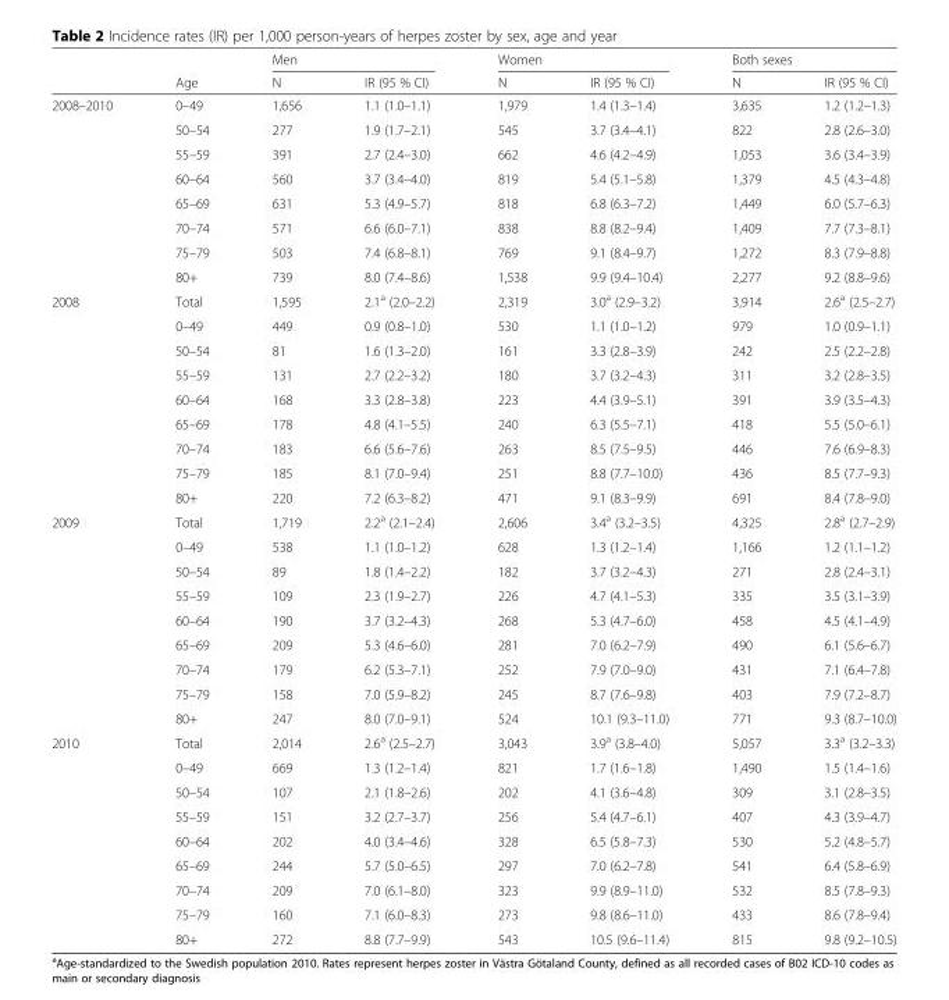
<table><thead><tr><td rowspan="2"></td><td rowspan="2">Age</td><td colspan="2">Men</td><td colspan="2">Women</td><td colspan="2">Both sexes</td></tr><tr><td>N</td><td>IR (95 % CI)</td><td>N</td><td>IR (95 % CI)</td><td>N</td><td>IR (95 % CI)</td></tr></thead><tbody><tr><td rowspan="8">2008–2010</td><td>0–49</td><td>1,656</td><td>1.1 (1.0–1.1)</td><td>1,979</td><td>1.4 (1.3–1.4)</td><td>3,635</td><td>1.2 (1.2–1.3)</td></tr><tr><td>50–54</td><td>277</td><td>1.9 (1.7–2.1)</td><td>545</td><td>3.7 (3.4–4.1)</td><td>822</td><td>2.8 (2.6–3.0)</td></tr><tr><td>55–59</td><td>391</td><td>2.7 (2.4–3.0)</td><td>662</td><td>4.6 (4.2–4.9)</td><td>1,053</td><td>3.6 (3.4–3.9)</td></tr><tr><td>60–64</td><td>560</td><td>3.7 (3.4–4.0)</td><td>819</td><td>5.4 (5.1–5.8)</td><td>1,379</td><td>4.5 (4.3–4.8)</td></tr><tr><td>65–69</td><td>631</td><td>5.3 (4.9–5.7)</td><td>818</td><td>6.8 (6.3–7.2)</td><td>1,449</td><td>6.0 (5.7–6.3)</td></tr><tr><td>70–74</td><td>571</td><td>6.6 (6.0–7.1)</td><td>838</td><td>8.8 (8.2–9.4)</td><td>1,409</td><td>7.7 (7.3–8.1)</td></tr><tr><td>75–79</td><td>503</td><td>7.4 (6.8–8.1)</td><td>769</td><td>9.1 (8.4–9.7)</td><td>1,272</td><td>8.3 (7.9–8.8)</td></tr><tr><td>80+</td><td>739</td><td>8.0 (7.4–8.6)</td><td>1,538</td><td>9.9 (9.4–10.4)</td><td>2,277</td><td>9.2 (8.8–9.6)</td></tr><tr><td rowspan="9">2008</td><td>Total</td><td>1,595</td><td>2.1<sup>a</sup> (2.0–2.2)</td><td>2,319</td><td>3.0<sup>a</sup> (2.9–3.2)</td><td>3,914</td><td>2.6<sup>a</sup> (2.5–2.7)</td></tr><tr><td>0–49</td><td>449</td><td>0.9 (0.8–1.0)</td><td>530</td><td>1.1 (1.0–1.2)</td><td>979</td><td>1.0 (0.9–1.1)</td></tr><tr><td>50–54</td><td>81</td><td>1.6 (1.3–2.0)</td><td>161</td><td>3.3 (2.8–3.9)</td><td>242</td><td>2.5 (2.2–2.8)</td></tr><tr><td>55–59</td><td>131</td><td>2.7 (2.2–3.2)</td><td>180</td><td>3.7 (3.2–4.3)</td><td>311</td><td>3.2 (2.8–3.5)</td></tr><tr><td>60–64</td><td>168</td><td>3.3 (2.8–3.8)</td><td>223</td><td>4.4 (3.9–5.1)</td><td>391</td><td>3.9 (3.5–4.3)</td></tr><tr><td>65–69</td><td>178</td><td>4.8 (4.1–5.5)</td><td>240</td><td>6.3 (5.5–7.1)</td><td>418</td><td>5.5 (5.0–6.1)</td></tr><tr><td>70–74</td><td>183</td><td>6.6 (5.6–7.6)</td><td>263</td><td>8.5 (7.5–9.5)</td><td>446</td><td>7.6 (6.9–8.3)</td></tr><tr><td>75–79</td><td>185</td><td>8.1 (7.0–9.4)</td><td>251</td><td>8.8 (7.7–10.0)</td><td>436</td><td>8.5 (7.7–9.3)</td></tr><tr><td>80+</td><td>220</td><td>7.2 (6.3–8.2)</td><td>471</td><td>9.1 (8.3–9.9)</td><td>691</td><td>8.4 (7.8–9.0)</td></tr><tr><td rowspan="9">2009</td><td>Total</td><td>1,719</td><td>2.2<sup>a</sup> (2.1–2.4)</td><td>2,606</td><td>3.4<sup>a</sup> (3.2–3.5)</td><td>4,325</td><td>2.8<sup>a</sup> (2.7–2.9)</td></tr><tr><td>0–49</td><td>538</td><td>1.1 (1.0–1.2)</td><td>628</td><td>1.3 (1.2–1.4)</td><td>1,166</td><td>1.2 (1.1–1.2)</td></tr><tr><td>50–54</td><td>89</td><td>1.8 (1.4–2.2)</td><td>182</td><td>3.7 (3.2–4.3)</td><td>271</td><td>2.8 (2.4–3.1)</td></tr><tr><td>55–59</td><td>109</td><td>2.3 (1.9–2.7)</td><td>226</td><td>4.7 (4.1–5.3)</td><td>335</td><td>3.5 (3.1–3.9)</td></tr><tr><td>60–64</td><td>190</td><td>3.7 (3.2–4.3)</td><td>268</td><td>5.3 (4.7–6.0)</td><td>458</td><td>4.5 (4.1–4.9)</td></tr><tr><td>65–69</td><td>209</td><td>5.3 (4.6–6.0)</td><td>281</td><td>7.0 (6.2–7.9)</td><td>490</td><td>6.1 (5.6–6.7)</td></tr><tr><td>70–74</td><td>179</td><td>6.2 (5.3–7.1)</td><td>252</td><td>7.9 (7.0–9.0)</td><td>431</td><td>7.1 (6.4–7.8)</td></tr><tr><td>75–79</td><td>158</td><td>7.0 (5.9–8.2)</td><td>245</td><td>8.7 (7.6–9.8)</td><td>403</td><td>7.9 (7.2–8.7)</td></tr><tr><td>80+</td><td>247</td><td>8.0 (7.0–9.1)</td><td>524</td><td>10.1 (9.3–11.0)</td><td>771</td><td>9.3 (8.7–10.0)</td></tr><tr><td rowspan="9">2010</td><td>Total</td><td>2,014</td><td>2.6<sup>a</sup> (2.5–2.7)</td><td>3,043</td><td>3.9<sup>a</sup> (3.8–4.0)</td><td>5,057</td><td>3.3<sup>a</sup> (3.2–3.3)</td></tr><tr><td>0–49</td><td>669</td><td>1.3 (1.2–1.4)</td><td>821</td><td>1.7 (1.6–1.8)</td><td>1,490</td><td>1.5 (1.4–1.6)</td></tr><tr><td>50–54</td><td>107</td><td>2.1 (1.8–2.6)</td><td>202</td><td>4.1 (3.6–4.8)</td><td>309</td><td>3.1 (2.8–3.5)</td></tr><tr><td>55–59</td><td>151</td><td>3.2 (2.7–3.7)</td><td>256</td><td>5.4 (4.7–6.1)</td><td>407</td><td>4.3 (3.9–4.7)</td></tr><tr><td>60–64</td><td>202</td><td>4.0 (3.4–4.6)</td><td>328</td><td>6.5 (5.8–7.3)</td><td>530</td><td>5.2 (4.8–5.7)</td></tr><tr><td>65–69</td><td>244</td><td>5.7 (5.0–6.5)</td><td>297</td><td>7.0 (6.2–7.8)</td><td>541</td><td>6.4 (5.8–6.9)</td></tr><tr><td>70–74</td><td>209</td><td>7.0 (6.1–8.0)</td><td>323</td><td>9.9 (8.9–11.0)</td><td>532</td><td>8.5 (7.8–9.3)</td></tr><tr><td>75–79</td><td>160</td><td>7.1 (6.0–8.3)</td><td>273</td><td>9.8 (8.6–11.0)</td><td>433</td><td>8.6 (7.8–9.4)</td></tr><tr><td>80+</td><td>272</td><td>8.8 (7.7–9.9)</td><td>543</td><td>10.5 (9.6–11.4)</td><td>815</td><td>9.8 (9.2–10.5)</td></tr></tbody></table>